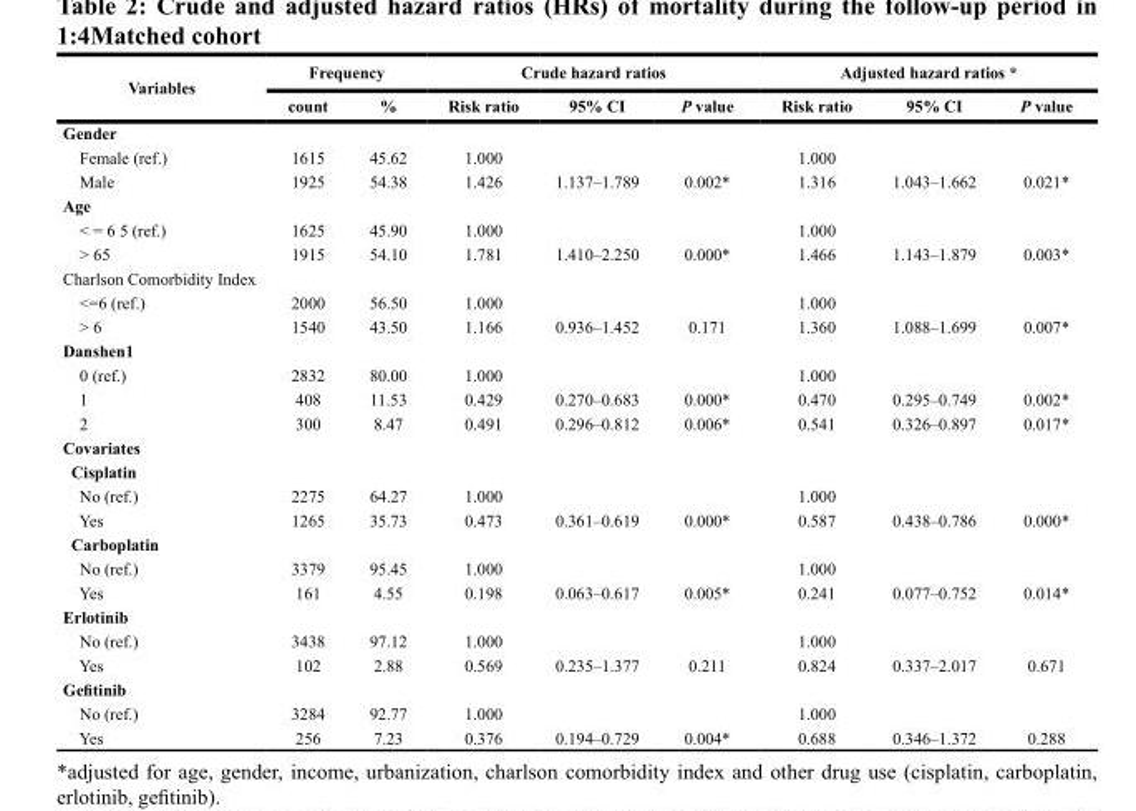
<table><thead><tr><td rowspan="2">Variables</td><td colspan="2">Frequency</td><td colspan="3">Crude hazard ratios</td><td colspan="3">Adjusted hazard ratios *</td></tr><tr><td>count</td><td>%</td><td>Risk ratio</td><td>95% CI</td><td>P value</td><td>Risk ratio</td><td>95% CI</td><td>P value</td></tr></thead><tbody><tr><td colspan="9">Gender</td></tr><tr><td>Female (ref.)</td><td>1615</td><td>45.62</td><td>1.000</td><td></td><td></td><td>1.000</td><td></td><td></td></tr><tr><td>Male</td><td>1925</td><td>54.38</td><td>1.426</td><td>1.137–1.789</td><td>0.002*</td><td>1.316</td><td>1.043–1.662</td><td>0.021*</td></tr><tr><td colspan="9">Age</td></tr><tr><td>&lt; = 6 5 (ref.)</td><td>1625</td><td>45.90</td><td>1.000</td><td></td><td></td><td>1.000</td><td></td><td></td></tr><tr><td>&gt; 65</td><td>1915</td><td>54.10</td><td>1.781</td><td>1.410–2.250</td><td>0.000*</td><td>1.466</td><td>1.143–1.879</td><td>0.003*</td></tr><tr><td colspan="9">Charlson Comorbidity Index</td></tr><tr><td>&lt;=6 (ref.)</td><td>2000</td><td>56.50</td><td>1.000</td><td></td><td></td><td>1.000</td><td></td><td></td></tr><tr><td>&gt; 6</td><td>1540</td><td>43.50</td><td>1.166</td><td>0.936–1.452</td><td>0.171</td><td>1.360</td><td>1.088–1.699</td><td>0.007*</td></tr><tr><td colspan="9">Danshen1</td></tr><tr><td>0 (ref.)</td><td>2832</td><td>80.00</td><td>1.000</td><td></td><td></td><td>1.000</td><td></td><td></td></tr><tr><td>1</td><td>408</td><td>11.53</td><td>0.429</td><td>0.270–0.683</td><td>0.000*</td><td>0.470</td><td>0.295–0.749</td><td>0.002*</td></tr><tr><td>2</td><td>300</td><td>8.47</td><td>0.491</td><td>0.296–0.812</td><td>0.006*</td><td>0.541</td><td>0.326–0.897</td><td>0.017*</td></tr><tr><td colspan="9">Covariates</td></tr><tr><td colspan="9">Cisplatin</td></tr><tr><td>No (ref.)</td><td>2275</td><td>64.27</td><td>1.000</td><td></td><td></td><td>1.000</td><td></td><td></td></tr><tr><td>Yes</td><td>1265</td><td>35.73</td><td>0.473</td><td>0.361–0.619</td><td>0.000*</td><td>0.587</td><td>0.438–0.786</td><td>0.000*</td></tr><tr><td colspan="9">Carboplatin</td></tr><tr><td>No (ref.)</td><td>3379</td><td>95.45</td><td>1.000</td><td></td><td></td><td>1.000</td><td></td><td></td></tr><tr><td>Yes</td><td>161</td><td>4.55</td><td>0.198</td><td>0.063–0.617</td><td>0.005*</td><td>0.241</td><td>0.077–0.752</td><td>0.014*</td></tr><tr><td colspan="9">Erlotinib</td></tr><tr><td>No (ref.)</td><td>3438</td><td>97.12</td><td>1.000</td><td></td><td></td><td>1.000</td><td></td><td></td></tr><tr><td>Yes</td><td>102</td><td>2.88</td><td>0.569</td><td>0.235–1.377</td><td>0.211</td><td>0.824</td><td>0.337–2.017</td><td>0.671</td></tr><tr><td colspan="9">Gefitinib</td></tr><tr><td>No (ref.)</td><td>3284</td><td>92.77</td><td>1.000</td><td></td><td></td><td>1.000</td><td></td><td></td></tr><tr><td>Yes</td><td>256</td><td>7.23</td><td>0.376</td><td>0.194–0.729</td><td>0.004*</td><td>0.688</td><td>0.346–1.372</td><td>0.288</td></tr></tbody></table>